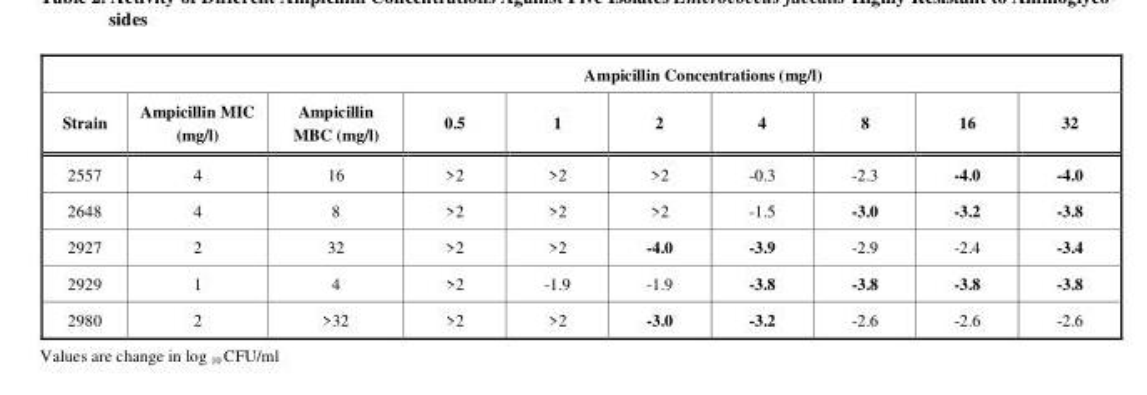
<table><thead><tr><td colspan="10">Ampicillin Concentrations (mg/l)</td></tr><tr><td>Strain</td><td>Ampicillin MIC (mg/l)</td><td>Ampicillin MBC (mg/l)</td><td>0.5</td><td>1</td><td>2</td><td>4</td><td>8</td><td>16</td><td>32</td></tr></thead><tbody><tr><td>2557</td><td>4</td><td>16</td><td>&gt;2</td><td>&gt;2</td><td>&gt;2</td><td>-0.3</td><td>-2.3</td><td>-4.0</td><td>-4.0</td></tr><tr><td>2648</td><td>4</td><td>8</td><td>&gt;2</td><td>&gt;2</td><td>&gt;2</td><td>-1.5</td><td>-3.0</td><td>-3.2</td><td>-3.8</td></tr><tr><td>2927</td><td>2</td><td>32</td><td>&gt;2</td><td>&gt;2</td><td>-4.0</td><td>-3.9</td><td>-2.9</td><td>-2.4</td><td>-3.4</td></tr><tr><td>2929</td><td>1</td><td>4</td><td>&gt;2</td><td>-1.9</td><td>-1.9</td><td>-3.8</td><td>-3.8</td><td>-3.8</td><td>-3.8</td></tr><tr><td>2980</td><td>2</td><td>&gt;32</td><td>&gt;2</td><td>&gt;2</td><td>-3.0</td><td>-3.2</td><td>-2.6</td><td>-2.6</td><td>-2.6</td></tr></tbody></table>